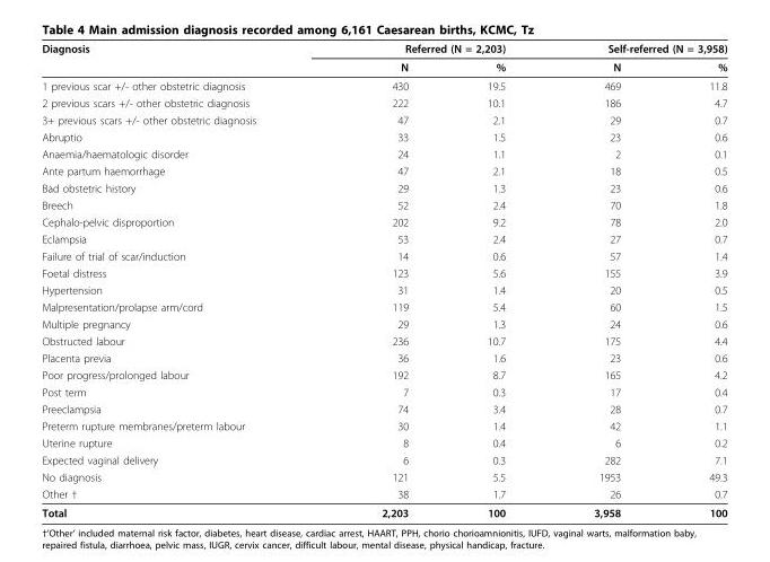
<table><thead><tr><td rowspan="2">Diagnosis</td><td colspan="2">Referred (N = 2,203)</td><td colspan="2">Self-referred (N = 3,958)</td></tr><tr><td>N</td><td>%</td><td>N</td><td>%</td></tr></thead><tbody><tr><td>1 previous scar +/- other obstetric diagnosis</td><td>430</td><td>19.5</td><td>469</td><td>11.8</td></tr><tr><td>2 previous scars +/- other obstetric diagnosis</td><td>222</td><td>10.1</td><td>186</td><td>4.7</td></tr><tr><td>3+ previous scars +/- other obstetric diagnosis</td><td>47</td><td>2.1</td><td>29</td><td>0.7</td></tr><tr><td>Abruptio</td><td>33</td><td>1.5</td><td>23</td><td>0.6</td></tr><tr><td>Anaemia/haematologic disorder</td><td>24</td><td>1.1</td><td>2</td><td>0.1</td></tr><tr><td>Ante partum haemorrhage</td><td>47</td><td>2.1</td><td>18</td><td>0.5</td></tr><tr><td>Bad obstetric history</td><td>29</td><td>1.3</td><td>23</td><td>0.6</td></tr><tr><td>Breech</td><td>52</td><td>2.4</td><td>70</td><td>1.8</td></tr><tr><td>Cephalo-pelvic disproportion</td><td>202</td><td>9.2</td><td>78</td><td>2.0</td></tr><tr><td>Eclampsia</td><td>53</td><td>2.4</td><td>27</td><td>0.7</td></tr><tr><td>Failure of trial of scar/induction</td><td>14</td><td>0.6</td><td>57</td><td>1.4</td></tr><tr><td>Foetal distress</td><td>123</td><td>5.6</td><td>155</td><td>3.9</td></tr><tr><td>Hypertension</td><td>31</td><td>1.4</td><td>20</td><td>0.5</td></tr><tr><td>Malpresentation/prolapse arm/cord</td><td>119</td><td>5.4</td><td>60</td><td>1.5</td></tr><tr><td>Multiple pregnancy</td><td>29</td><td>1.3</td><td>24</td><td>0.6</td></tr><tr><td>Obstructed labour</td><td>236</td><td>10.7</td><td>175</td><td>4.4</td></tr><tr><td>Placenta previa</td><td>36</td><td>1.6</td><td>23</td><td>0.6</td></tr><tr><td>Poor progress/prolonged labour</td><td>192</td><td>8.7</td><td>165</td><td>4.2</td></tr><tr><td>Post term</td><td>7</td><td>0.3</td><td>17</td><td>0.4</td></tr><tr><td>Preeclampsia</td><td>74</td><td>3.4</td><td>28</td><td>0.7</td></tr><tr><td>Preterm rupture membranes/preterm labour</td><td>30</td><td>1.4</td><td>42</td><td>1.1</td></tr><tr><td>Uterine rupture</td><td>8</td><td>0.4</td><td>6</td><td>0.2</td></tr><tr><td>Expected vaginal delivery</td><td>6</td><td>0.3</td><td>282</td><td>7.1</td></tr><tr><td>No diagnosis</td><td>121</td><td>5.5</td><td>1953</td><td>49.3</td></tr><tr><td>Other †</td><td>38</td><td>1.7</td><td>26</td><td>0.7</td></tr><tr><td>Total</td><td>2,203</td><td>100</td><td>3,958</td><td>100</td></tr></tbody></table>